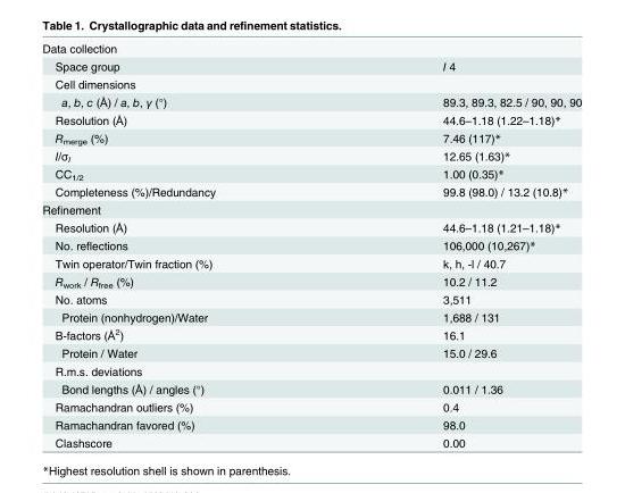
<table><tbody><tr><td colspan="2">Data collection</td></tr><tr><td>Space group</td><td>I 4</td></tr><tr><td colspan="2">Cell dimensions</td></tr><tr><td>a, b, c (Å) / a, b, γ (°)</td><td>89.3, 89.3, 82.5 / 90, 90, 90</td></tr><tr><td>Resolution (Å)</td><td>44.6–1.18 (1.22–1.18)*</td></tr><tr><td>R<sub>merge</sub> (%)</td><td>7.46 (117)*</td></tr><tr><td>I/σ<sub>I</sub></td><td>12.65 (1.63)*</td></tr><tr><td>CC<sub>1/2</sub></td><td>1.00 (0.35)*</td></tr><tr><td>Completeness (%)/Redundancy</td><td>99.8 (98.0) / 13.2 (10.8)*</td></tr><tr><td colspan="2">Refinement</td></tr><tr><td>Resolution (Å)</td><td>44.6–1.18 (1.21–1.18)*</td></tr><tr><td>No. reflections</td><td>106,000 (10,267)*</td></tr><tr><td>Twin operator/Twin fraction (%)</td><td>k, h, -l / 40.7</td></tr><tr><td>R<sub>work</sub> / R<sub>free</sub> (%)</td><td>10.2 / 11.2</td></tr><tr><td>No. atoms</td><td>3,511</td></tr><tr><td>Protein (nonhydrogen)/Water</td><td>1,688 / 131</td></tr><tr><td>B-factors (Å<sup>2</sup>)</td><td>16.1</td></tr><tr><td>Protein / Water</td><td>15.0 / 29.6</td></tr><tr><td colspan="2">R.m.s. deviations</td></tr><tr><td>Bond lengths (Å) / angles (°)</td><td>0.011 / 1.36</td></tr><tr><td>Ramachandran outliers (%)</td><td>0.4</td></tr><tr><td>Ramachandran favored (%)</td><td>98.0</td></tr><tr><td>Clashscore</td><td>0.00</td></tr></tbody></table>